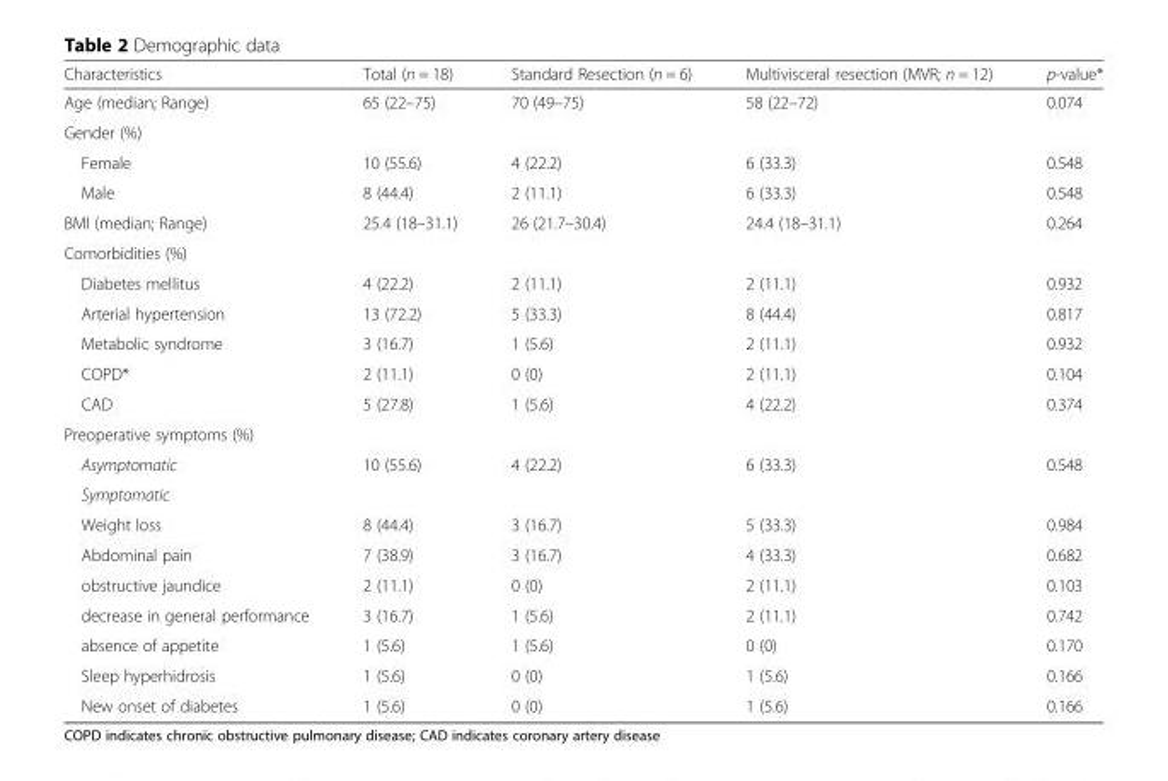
<table><thead><tr><td>Characteristics</td><td>Total (n = 18)</td><td>Standard Resection (n = 6)</td><td>Multivisceral resection (MVR; n = 12)</td><td>p-value*</td></tr></thead><tbody><tr><td>Age (median; Range)</td><td>65 (22–75)</td><td>70 (49–75)</td><td>58 (22–72)</td><td>0.074</td></tr><tr><td colspan="5">Gender (%)</td></tr><tr><td>Female</td><td>10 (55.6)</td><td>4 (22.2)</td><td>6 (33.3)</td><td>0.548</td></tr><tr><td>Male</td><td>8 (44.4)</td><td>2 (11.1)</td><td>6 (33.3)</td><td>0.548</td></tr><tr><td>BMI (median; Range)</td><td>25.4 (18–31.1)</td><td>26 (21.7–30.4)</td><td>24.4 (18–31.1)</td><td>0.264</td></tr><tr><td colspan="5">Comorbidities (%)</td></tr><tr><td>Diabetes mellitus</td><td>4 (22.2)</td><td>2 (11.1)</td><td>2 (11.1)</td><td>0.932</td></tr><tr><td>Arterial hypertension</td><td>13 (72.2)</td><td>5 (33.3)</td><td>8 (44.4)</td><td>0.817</td></tr><tr><td>Metabolic syndrome</td><td>3 (16.7)</td><td>1 (5.6)</td><td>2 (11.1)</td><td>0.932</td></tr><tr><td>COPD*</td><td>2 (11.1)</td><td>0 (0)</td><td>2 (11.1)</td><td>0.104</td></tr><tr><td>CAD</td><td>5 (27.8)</td><td>1 (5.6)</td><td>4 (22.2)</td><td>0.374</td></tr><tr><td colspan="5">Preoperative symptoms (%)</td></tr><tr><td>Asymptomatic</td><td>10 (55.6)</td><td>4 (22.2)</td><td>6 (33.3)</td><td>0.548</td></tr><tr><td colspan="5">Symptomatic</td></tr><tr><td>Weight loss</td><td>8 (44.4)</td><td>3 (16.7)</td><td>5 (33.3)</td><td>0.984</td></tr><tr><td>Abdominal pain</td><td>7 (38.9)</td><td>3 (16.7)</td><td>4 (33.3)</td><td>0.682</td></tr><tr><td>obstructive jaundice</td><td>2 (11.1)</td><td>0 (0)</td><td>2 (11.1)</td><td>0.103</td></tr><tr><td>decrease in general performance</td><td>3 (16.7)</td><td>1 (5.6)</td><td>2 (11.1)</td><td>0.742</td></tr><tr><td>absence of appetite</td><td>1 (5.6)</td><td>1 (5.6)</td><td>0 (0)</td><td>0.170</td></tr><tr><td>Sleep hyperhidrosis</td><td>1 (5.6)</td><td>0 (0)</td><td>1 (5.6)</td><td>0.166</td></tr><tr><td>New onset of diabetes</td><td>1 (5.6)</td><td>0 (0)</td><td>1 (5.6)</td><td>0.166</td></tr></tbody></table>